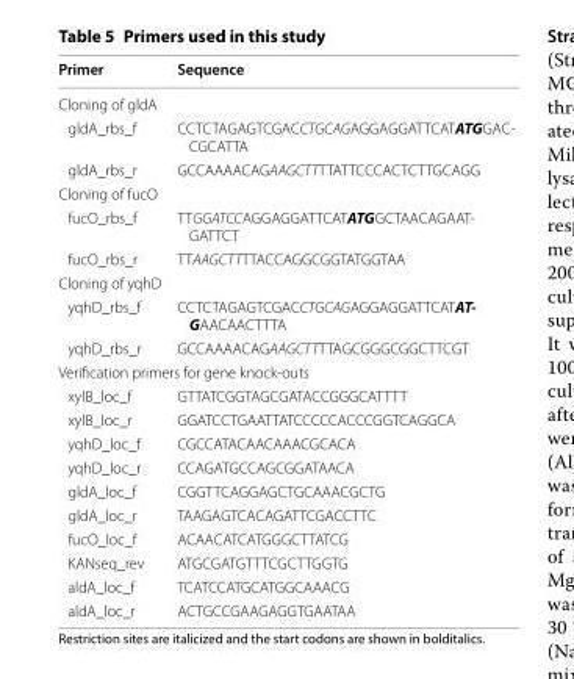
<table><thead><tr><td>Primer</td><td>Sequence</td></tr></thead><tbody><tr><td colspan="2">Cloning of gldA</td></tr><tr><td>gldA_rbs_f</td><td>CCTCTAGAGTCGACCTGCAGAGGAGGATTCATATGGAC- CGCATTA</td></tr><tr><td>gldA_rbs_r</td><td>GCCAAAACAGAAGCTTTTATTCCCACTCTTGCAGG</td></tr><tr><td colspan="2">Cloning of fucO</td></tr><tr><td>fucO_rbs_f</td><td>TTGGATCCAGGAGGATTCATATGGCTAACAGAAT- GATTCT</td></tr><tr><td>fucO_rbs_r</td><td>TTAAGCTTTTACCAGGCGGTATGGTAA</td></tr><tr><td colspan="2">Cloning of yqhD</td></tr><tr><td>yqhD_rbs_f</td><td>CCTCTAGAGTCGACCTGCAGAGGAGGATTCATAT- GAACAACTTTA</td></tr><tr><td>yqhD_rbs_r</td><td>GCCAAAACAGAAGCTTTTAGCGGGCGGCTTCGT</td></tr><tr><td colspan="2">Verification primers for gene knock-outs</td></tr><tr><td>xylB_loc_f</td><td>GTTATCGGTAGCGATACCGGGCATTTT</td></tr><tr><td>xylB_loc_r</td><td>GGATCCTGAATTATCCCCCACCCGGTCAGGCA</td></tr><tr><td>yqhD_loc_f</td><td>CGCCATACAACAAACGCACA</td></tr><tr><td>yqhD_loc_r</td><td>CCAGATGCCAGCGGATAACA</td></tr><tr><td>gldA_loc_f</td><td>CGGTTCAGGAGCTGCAAACGCTG</td></tr><tr><td>gldA_loc_r</td><td>TAAGAGTCACAGATTCGACCTTC</td></tr><tr><td>fucO_loc_f</td><td>ACAACATCATGGGCTTATCG</td></tr><tr><td>KANseq_rev</td><td>ATGCGATGTTTCGCTTGGTG</td></tr><tr><td>aldA_loc_f</td><td>TCATCCATGCATGGCAAACG</td></tr><tr><td>aldA_loc_r</td><td>ACTGCCGAAGAGGTGAATAA</td></tr></tbody></table>